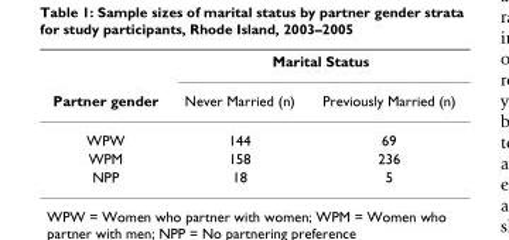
<table><thead><tr><td rowspan="2">Partner gender</td><td colspan="2">Marital Status</td></tr><tr><td>Never Married (n)</td><td>Previously Married (n)</td></tr></thead><tbody><tr><td>WPW</td><td>144</td><td>69</td></tr><tr><td>WPM</td><td>158</td><td>236</td></tr><tr><td>NPP</td><td>18</td><td>5</td></tr></tbody></table>